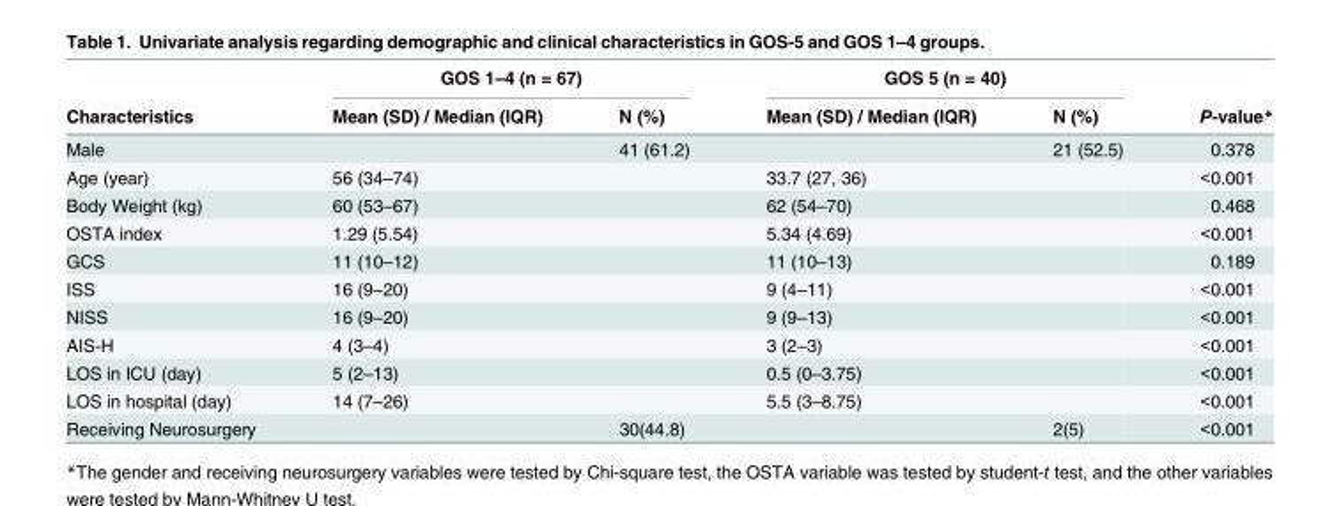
<table><thead><tr><td rowspan="2">Characteristics</td><td colspan="2">GOS 1–4 (n = 67)</td><td colspan="2">GOS 5 (n = 40)</td><td rowspan="2">P-value*</td></tr><tr><td>Mean (SD) / Median (IQR)</td><td>N (%)</td><td>Mean (SD) / Median (IQR)</td><td>N (%)</td></tr></thead><tbody><tr><td>Male</td><td></td><td>41 (61.2)</td><td></td><td>21 (52.5)</td><td>0.378</td></tr><tr><td>Age (year)</td><td>56 (34–74)</td><td></td><td>33.7 (27, 36)</td><td></td><td>&lt;0.001</td></tr><tr><td>Body Weight (kg)</td><td>60 (53–67)</td><td></td><td>62 (54–70)</td><td></td><td>0.468</td></tr><tr><td>OSTA index</td><td>1.29 (5.54)</td><td></td><td>5.34 (4.69)</td><td></td><td>&lt;0.001</td></tr><tr><td>GCS</td><td>11 (10–12)</td><td></td><td>11 (10–13)</td><td></td><td>0.189</td></tr><tr><td>ISS</td><td>16 (9–20)</td><td></td><td>9 (4–11)</td><td></td><td>&lt;0.001</td></tr><tr><td>NISS</td><td>16 (9–20)</td><td></td><td>9 (9–13)</td><td></td><td>&lt;0.001</td></tr><tr><td>AIS-H</td><td>4 (3–4)</td><td></td><td>3 (2–3)</td><td></td><td>&lt;0.001</td></tr><tr><td>LOS in ICU (day)</td><td>5 (2–13)</td><td></td><td>0.5 (0–3.75)</td><td></td><td>&lt;0.001</td></tr><tr><td>LOS in hospital (day)</td><td>14 (7–26)</td><td></td><td>5.5 (3–8.75)</td><td></td><td>&lt;0.001</td></tr><tr><td>Receiving Neurosurgery</td><td></td><td>30(44.8)</td><td></td><td>2(5)</td><td>&lt;0.001</td></tr></tbody></table>